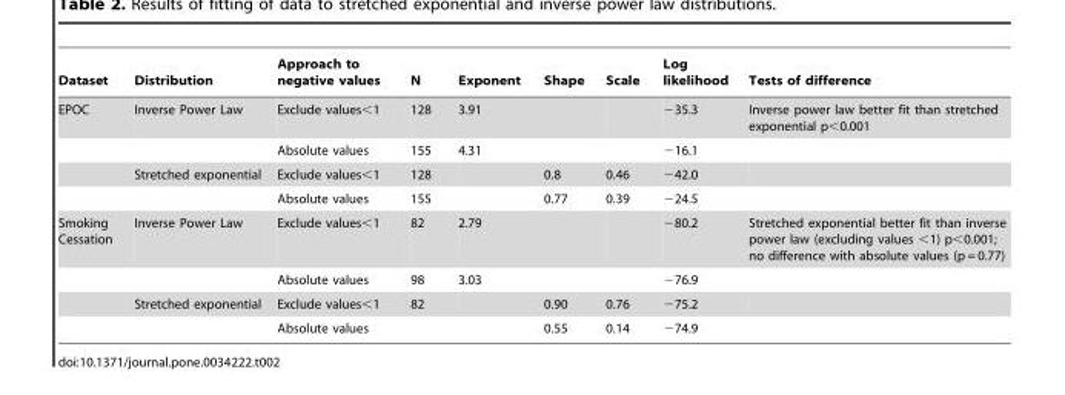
<table><thead><tr><td>Dataset</td><td>Distribution</td><td>Approach to negative values</td><td>N</td><td>Exponent</td><td>Shape</td><td>Scale</td><td>Log likelihood</td><td>Tests of difference</td></tr></thead><tbody><tr><td rowspan="4">EPOC</td><td>Inverse Power Law</td><td>Exclude values&lt;1</td><td>128</td><td>3.91</td><td></td><td></td><td>−35.3</td><td>Inverse power law better fit than stretched exponential p&lt;0.001</td></tr><tr><td></td><td>Absolute values</td><td>155</td><td>4.31</td><td></td><td></td><td>−16.1</td><td></td></tr><tr><td>Stretched exponential</td><td>Exclude values&lt;1</td><td>128</td><td></td><td>0.8</td><td>0.46</td><td>−42.0</td><td></td></tr><tr><td></td><td>Absolute values</td><td>155</td><td></td><td>0.77</td><td>0.39</td><td>−24.5</td><td></td></tr><tr><td rowspan="4">Smoking Cessation</td><td>Inverse Power Law</td><td>Exclude values&lt;1</td><td>82</td><td>2.79</td><td></td><td></td><td>−80.2</td><td>Stretched exponential better fit than inverse power law (excluding values &lt;1) p&lt;0.001; no difference with absolute values (p = 0.77)</td></tr><tr><td></td><td>Absolute values</td><td>98</td><td>3.03</td><td></td><td></td><td>−76.9</td><td></td></tr><tr><td>Stretched exponential</td><td>Exclude values&lt;1</td><td>82</td><td></td><td>0.90</td><td>0.76</td><td>−75.2</td><td></td></tr><tr><td></td><td>Absolute values</td><td></td><td></td><td>0.55</td><td>0.14</td><td>−74.9</td><td></td></tr></tbody></table>